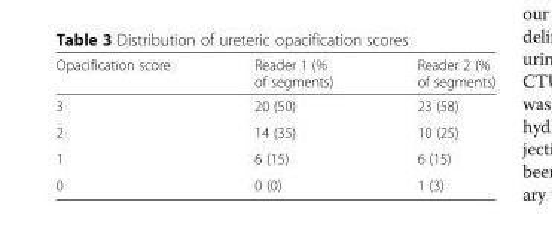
<table><thead><tr><td>Opacification score</td><td>Reader 1 (% of segments)</td><td>Reader 2 (% of segments)</td></tr></thead><tbody><tr><td>3</td><td>20 (50)</td><td>23 (58)</td></tr><tr><td>2</td><td>14 (35)</td><td>10 (25)</td></tr><tr><td>1</td><td>6 (15)</td><td>6 (15)</td></tr><tr><td>0</td><td>0 (0)</td><td>1 (3)</td></tr></tbody></table>